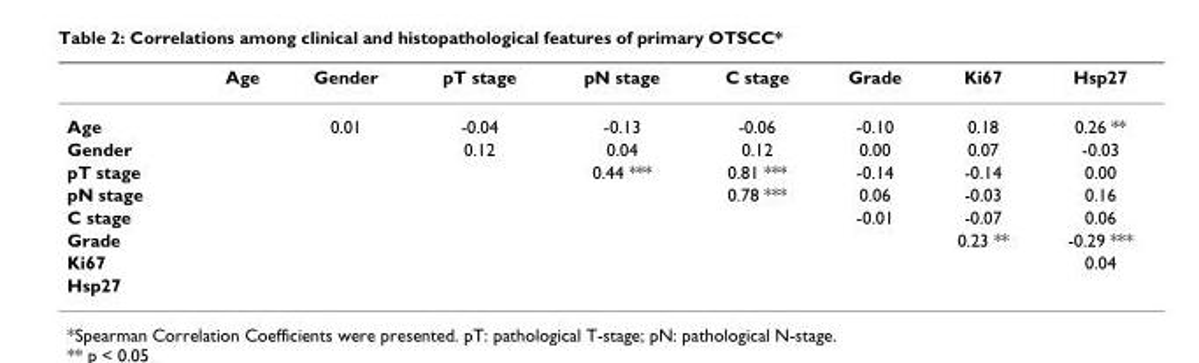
<table><thead><tr><td></td><td>Age</td><td>Gender</td><td>pT stage</td><td>pN stage</td><td>C stage</td><td>Grade</td><td>Ki67</td><td>Hsp27</td></tr></thead><tbody><tr><td>Age</td><td></td><td>0.01</td><td>-0.04</td><td>-0.13</td><td>-0.06</td><td>-0.10</td><td>0.18</td><td>0.26 **</td></tr><tr><td>Gender</td><td></td><td></td><td>0.12</td><td>0.04</td><td>0.12</td><td>0.00</td><td>0.07</td><td>-0.03</td></tr><tr><td>pT stage</td><td></td><td></td><td></td><td>0.44 ***</td><td>0.81 ***</td><td>-0.14</td><td>-0.14</td><td>0.00</td></tr><tr><td>pN stage</td><td></td><td></td><td></td><td></td><td>0.78 ***</td><td>0.06</td><td>-0.03</td><td>0.16</td></tr><tr><td>C stage</td><td></td><td></td><td></td><td></td><td></td><td>-0.01</td><td>-0.07</td><td>0.06</td></tr><tr><td>Grade</td><td></td><td></td><td></td><td></td><td></td><td></td><td>0.23 **</td><td>-0.29 ***</td></tr><tr><td>Ki67</td><td></td><td></td><td></td><td></td><td></td><td></td><td></td><td>0.04</td></tr><tr><td>Hsp27</td><td></td><td></td><td></td><td></td><td></td><td></td><td></td><td></td></tr></tbody></table>